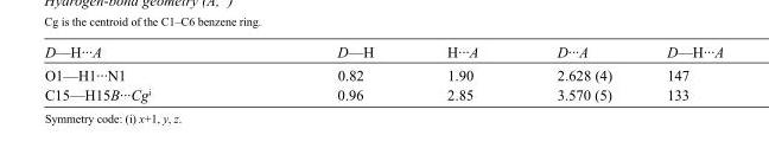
<table><tbody><tr><td>D—H···A</td><td>D—H</td><td>H···A</td><td>D···A</td><td>D—H···A</td></tr><tr><td>O1—H1···N1</td><td>0.82</td><td>1.90</td><td>2.628 (4)</td><td>147</td></tr><tr><td>C15—H15B···Cg<sup>i</sup></td><td>0.96</td><td>2.85</td><td>3.570 (5)</td><td>133</td></tr></tbody></table>